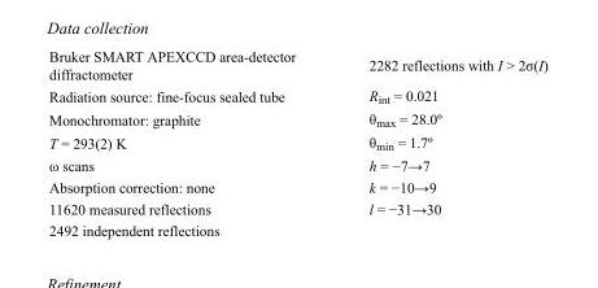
<table><tbody><tr><td>Bruker SMART APEXCCD area-detector diffractometer</td><td>2282 reflections with I &gt; 2σ(I)</td></tr><tr><td>Radiation source: fine-focus sealed tube</td><td>R<sub>int</sub> = 0.021</td></tr><tr><td>Monochromator: graphite</td><td>θ<sub>max</sub> = 28.0º</td></tr><tr><td>T = 293(2) K</td><td>θ<sub>min</sub> = 1.7º</td></tr><tr><td>ω scans</td><td>h = −7→7</td></tr><tr><td>Absorption correction: none</td><td>k = −10→9</td></tr><tr><td>11620 measured reflections</td><td>l = −31→30</td></tr><tr><td>2492 independent reflections</td><td></td></tr></tbody></table>